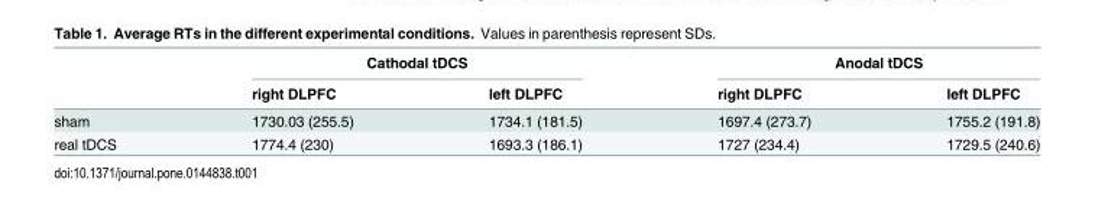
<table><thead><tr><td rowspan="2"></td><td colspan="2">Cathodal tDCS</td><td colspan="2">Anodal tDCS</td></tr><tr><td>right DLPFC</td><td>left DLPFC</td><td>right DLPFC</td><td>left DLPFC</td></tr></thead><tbody><tr><td>sham</td><td>1730.03 (255.5)</td><td>1734.1 (181.5)</td><td>1697.4 (273.7)</td><td>1755.2 (191.8)</td></tr><tr><td>real tDCS</td><td>1774.4 (230)</td><td>1693.3 (186.1)</td><td>1727 (234.4)</td><td>1729.5 (240.6)</td></tr></tbody></table>